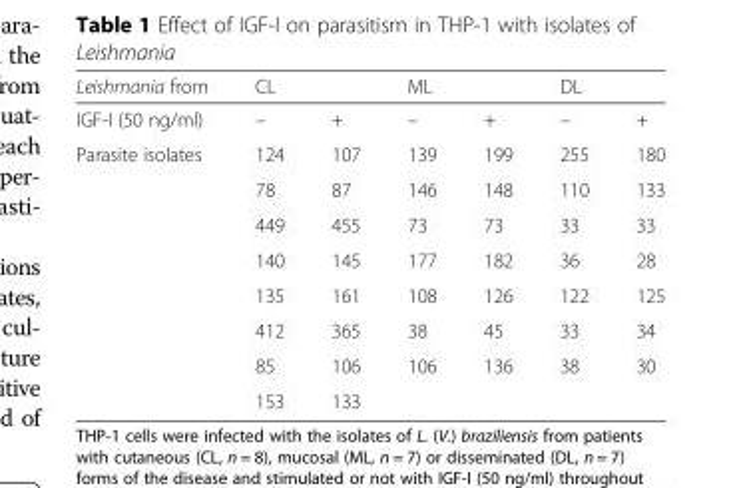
<table><thead><tr><td rowspan="2">Leishmania from IGF-I (50 ng/ml)</td><td colspan="2">CL</td><td colspan="2">ML</td><td colspan="2">DL</td></tr><tr><td>–</td><td>+</td><td>–</td><td>+</td><td>–</td><td>+</td></tr></thead><tbody><tr><td rowspan="8">Parasite isolates</td><td>124</td><td>107</td><td>139</td><td>199</td><td>255</td><td>180</td></tr><tr><td>78</td><td>87</td><td>146</td><td>148</td><td>110</td><td>133</td></tr><tr><td>449</td><td>455</td><td>73</td><td>73</td><td>33</td><td>33</td></tr><tr><td>140</td><td>145</td><td>177</td><td>182</td><td>36</td><td>28</td></tr><tr><td>135</td><td>161</td><td>108</td><td>126</td><td>122</td><td>125</td></tr><tr><td>412</td><td>365</td><td>38</td><td>45</td><td>33</td><td>34</td></tr><tr><td>85</td><td>106</td><td>106</td><td>136</td><td>38</td><td>30</td></tr><tr><td>153</td><td>133</td><td></td><td></td><td></td><td></td></tr></tbody></table>